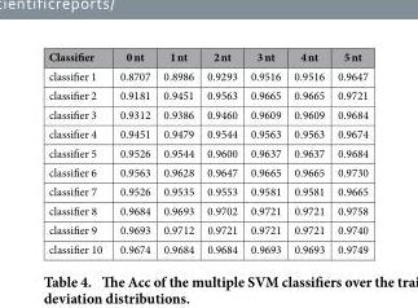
<table><thead><tr><td>Classifier</td><td>0 nt</td><td>1 nt</td><td>2 nt</td><td>3 nt</td><td>4 nt</td><td>5 nt</td></tr></thead><tbody><tr><td>classifier 1</td><td>0.8707</td><td>0.8986</td><td>0.9293</td><td>0.9516</td><td>0.9516</td><td>0.9647</td></tr><tr><td>classifier 2</td><td>0.9181</td><td>0.9451</td><td>0.9563</td><td>0.9665</td><td>0.9665</td><td>0.9721</td></tr><tr><td>classifier 3</td><td>0.9312</td><td>0.9386</td><td>0.9460</td><td>0.9609</td><td>0.9609</td><td>0.9684</td></tr><tr><td>classifier 4</td><td>0.9451</td><td>0.9479</td><td>0.9544</td><td>0.9563</td><td>0.9563</td><td>0.9674</td></tr><tr><td>classifier 5</td><td>0.9526</td><td>0.9544</td><td>0.9600</td><td>0.9637</td><td>0.9637</td><td>0.9684</td></tr><tr><td>classifier 6</td><td>0.9563</td><td>0.9628</td><td>0.9647</td><td>0.9665</td><td>0.9665</td><td>0.9730</td></tr><tr><td>classifier 7</td><td>0.9526</td><td>0.9535</td><td>0.9553</td><td>0.9581</td><td>0.9581</td><td>0.9665</td></tr><tr><td>classifier 8</td><td>0.9684</td><td>0.9693</td><td>0.9702</td><td>0.9721</td><td>0.9721</td><td>0.9758</td></tr><tr><td>classifier 9</td><td>0.9693</td><td>0.9712</td><td>0.9721</td><td>0.9721</td><td>0.9721</td><td>0.9740</td></tr><tr><td>classifier 10</td><td>0.9674</td><td>0.9684</td><td>0.9684</td><td>0.9693</td><td>0.9693</td><td>0.9749</td></tr></tbody></table>